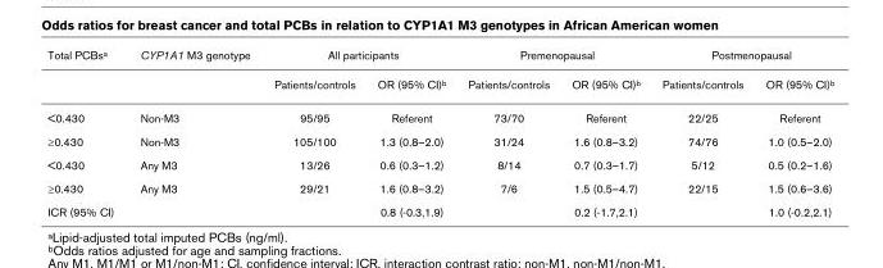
<table><thead><tr><td rowspan="2">Total PCBsa</td><td rowspan="2">CYP1A1 M3 genotype</td><td colspan="2">All participants</td><td colspan="2">Premenopausal</td><td colspan="2">Postmenopausal</td></tr><tr><td>Patients/controls</td><td>OR (95% CI)b</td><td>Patients/controls</td><td>OR (95% CI)b</td><td>Patients/controls</td><td>OR (95% CI)b</td></tr></thead><tbody><tr><td>&lt;0.430</td><td>Non-M3</td><td>95/95</td><td>Referent</td><td>73/70</td><td>Referent</td><td>22/25</td><td>Referent</td></tr><tr><td>≥0.430</td><td>Non-M3</td><td>105/100</td><td>1.3 (0.8–2.0)</td><td>31/24</td><td>1.6 (0.8–3.2)</td><td>74/76</td><td>1.0 (0.5–2.0)</td></tr><tr><td>&lt;0.430</td><td>Any M3</td><td>13/26</td><td>0.6 (0.3–1.2)</td><td>8/14</td><td>0.7 (0.3–1.7)</td><td>5/12</td><td>0.5 (0.2–1.6)</td></tr><tr><td>≥0.430</td><td>Any M3</td><td>29/21</td><td>1.6 (0.8–3.2)</td><td>7/6</td><td>1.5 (0.5–4.7)</td><td>22/15</td><td>1.5 (0.6–3.6)</td></tr><tr><td>ICR (95% CI)</td><td></td><td></td><td>0.8 (-0.3,1.9)</td><td></td><td>0.2 (-1.7,2.1)</td><td></td><td>1.0 (-0.2,2.1)</td></tr></tbody></table>